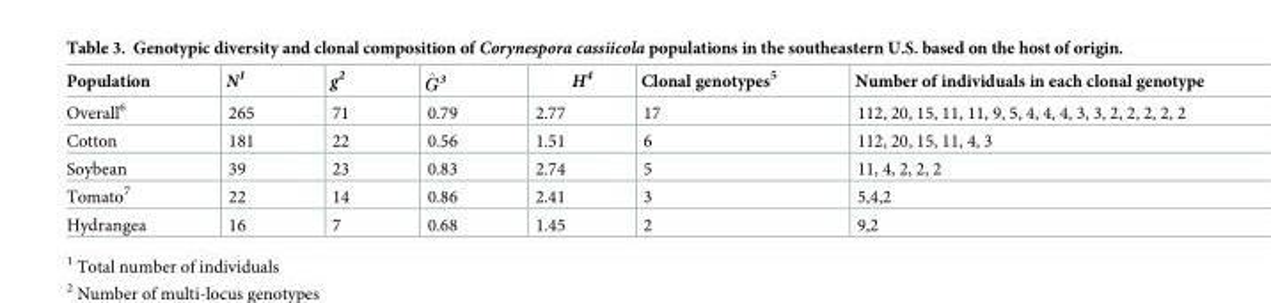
<table><thead><tr><td>Population</td><td>N<sup>1</sup></td><td>g<sup>2</sup></td><td>^G3</td><td>H<sup>4</sup></td><td>Clonal genotypes<sup>5</sup></td><td>Number of individuals in each clonal genotype</td></tr></thead><tbody><tr><td>Overall<sup>6</sup></td><td>265</td><td>71</td><td>0.79</td><td>2.77</td><td>17</td><td>112, 20, 15, 11, 11, 9, 5, 4, 4, 4, 3, 3, 2, 2, 2, 2, 2</td></tr><tr><td>Cotton</td><td>181</td><td>22</td><td>0.56</td><td>1.51</td><td>6</td><td>112, 20, 15, 11, 4, 3</td></tr><tr><td>Soybean</td><td>39</td><td>23</td><td>0.83</td><td>2.74</td><td>5</td><td>11, 4, 2, 2, 2</td></tr><tr><td>Tomato<sup>7</sup></td><td>22</td><td>14</td><td>0.86</td><td>2.41</td><td>3</td><td>5,4,2</td></tr><tr><td>Hydrangea</td><td>16</td><td>7</td><td>0.68</td><td>1.45</td><td>2</td><td>9,2</td></tr></tbody></table>